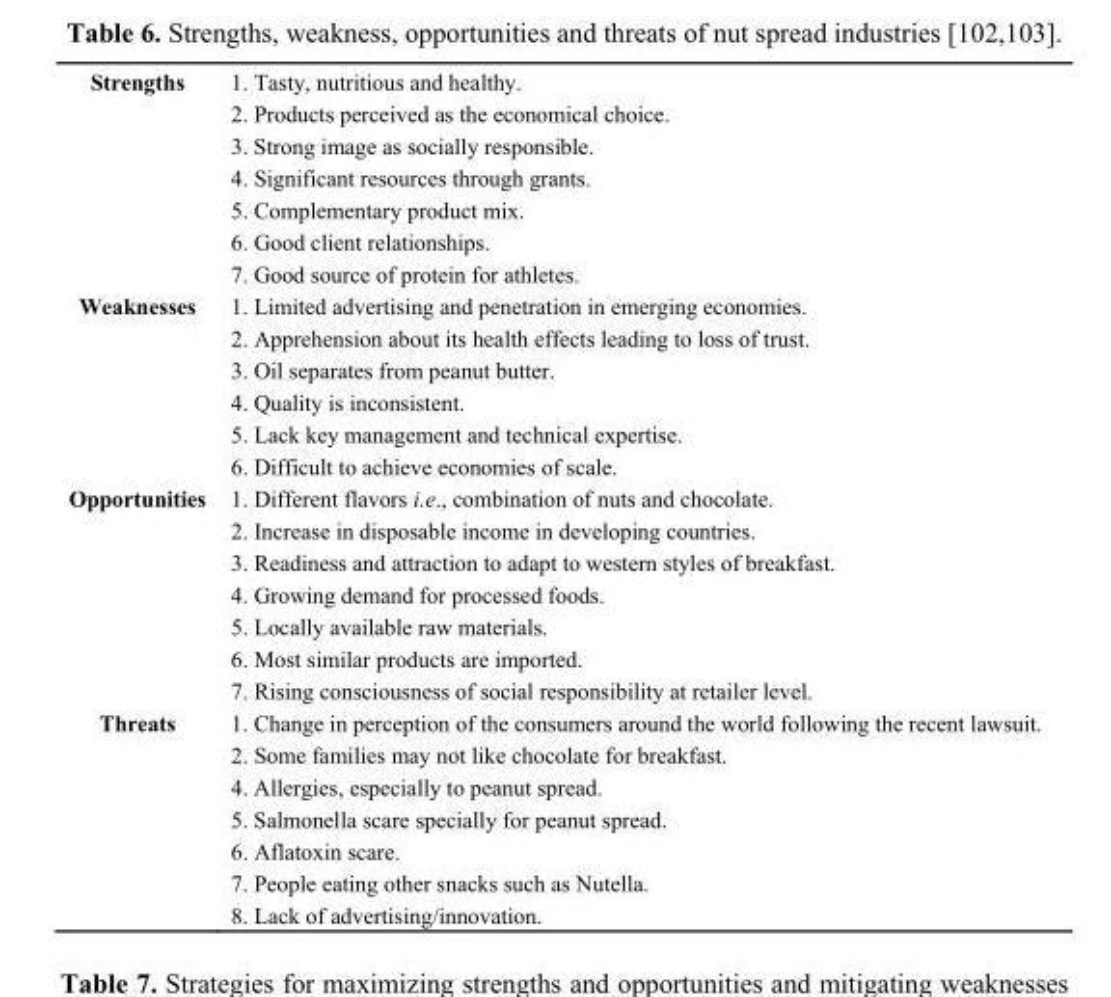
<table><tbody><tr><td>Strengths</td><td>1. Tasty, nutritious and healthy. 2. Products perceived as the economical choice. 3. Strong image as socially responsible. 4. Significant resources through grants. 5. Complementary product mix. 6. Good client relationships. 7. Good source of protein for athletes.</td></tr><tr><td>Weaknesses</td><td>1. Limited advertising and penetration in emerging economies. 2. Apprehension about its health effects leading to loss of trust. 3. Oil separates from peanut butter. 4. Quality is inconsistent. 5. Lack key management and technical expertise. 6. Difficult to achieve economies of scale.</td></tr><tr><td>Opportunities</td><td>1. Different flavors i.e., combination of nuts and chocolate. 2. Increase in disposable income in developing countries. 3. Readiness and attraction to adapt to western styles of breakfast. 4. Growing demand for processed foods. 5. Locally available raw materials. 6. Most similar products are imported. 7. Rising consciousness of social responsibility at retailer level.</td></tr><tr><td>Threats</td><td>1. Change in perception of the consumers around the world following the recent lawsuit. 2. Some families may not like chocolate for breakfast. 4. Allergies, especially to peanut spread. 5. Salmonella scare specially for peanut spread. 6. Aflatoxin scare. 7. People eating other snacks such as Nutella. 8. Lack of advertising/innovation.</td></tr></tbody></table>